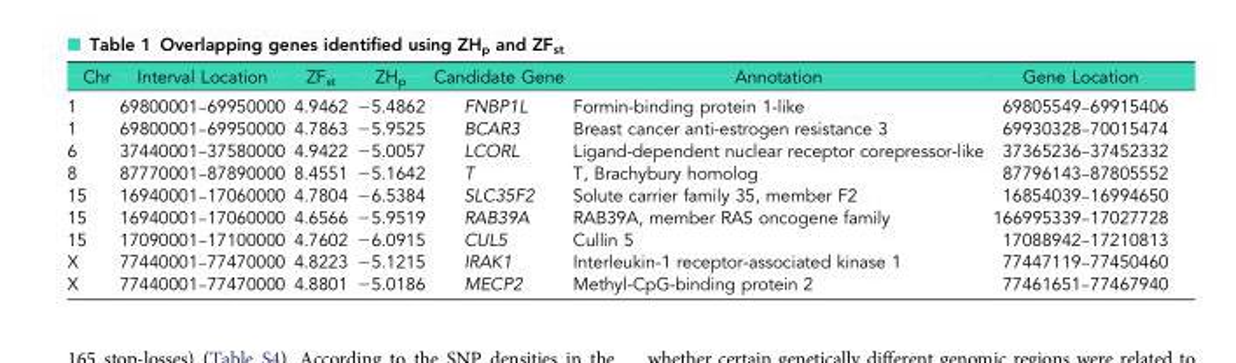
<table><thead><tr><td>Chr</td><td>Interval Location</td><td>ZF<sub>st</sub></td><td>ZH<sub>p</sub></td><td>Candidate Gene</td><td>Annotation</td><td>Gene Location</td></tr></thead><tbody><tr><td>1</td><td>69800001–69950000</td><td>4.9462</td><td>−5.4862</td><td>FNBP1L</td><td>Formin-binding protein 1-like</td><td>69805549–69915406</td></tr><tr><td>1</td><td>69800001–69950000</td><td>4.7863</td><td>−5.9525</td><td>BCAR3</td><td>Breast cancer anti-estrogen resistance 3</td><td>69930328–70015474</td></tr><tr><td>6</td><td>37440001–37580000</td><td>4.9422</td><td>−5.0057</td><td>LCORL</td><td>Ligand-dependent nuclear receptor corepressor-like</td><td>37365236–37452332</td></tr><tr><td>8</td><td>87770001–87890000</td><td>8.4551</td><td>−5.1642</td><td>T</td><td>T, Brachybury homolog</td><td>87796143–87805552</td></tr><tr><td>15</td><td>16940001–17060000</td><td>4.7804</td><td>−6.5384</td><td>SLC35F2</td><td>Solute carrier family 35, member F2</td><td>16854039–16994650</td></tr><tr><td>15</td><td>16940001–17060000</td><td>4.6566</td><td>−5.9519</td><td>RAB39A</td><td>RAB39A, member RAS oncogene family</td><td>166995339–17027728</td></tr><tr><td>15</td><td>17090001–17100000</td><td>4.7602</td><td>−6.0915</td><td>CUL5</td><td>Cullin 5</td><td>17088942–17210813</td></tr><tr><td>X</td><td>77440001–77470000</td><td>4.8223</td><td>−5.1215</td><td>IRAK1</td><td>Interleukin-1 receptor-associated kinase 1</td><td>77447119–77450460</td></tr><tr><td>X</td><td>77440001–77470000</td><td>4.8801</td><td>−5.0186</td><td>MECP2</td><td>Methyl-CpG-binding protein 2</td><td>77461651–77467940</td></tr></tbody></table>